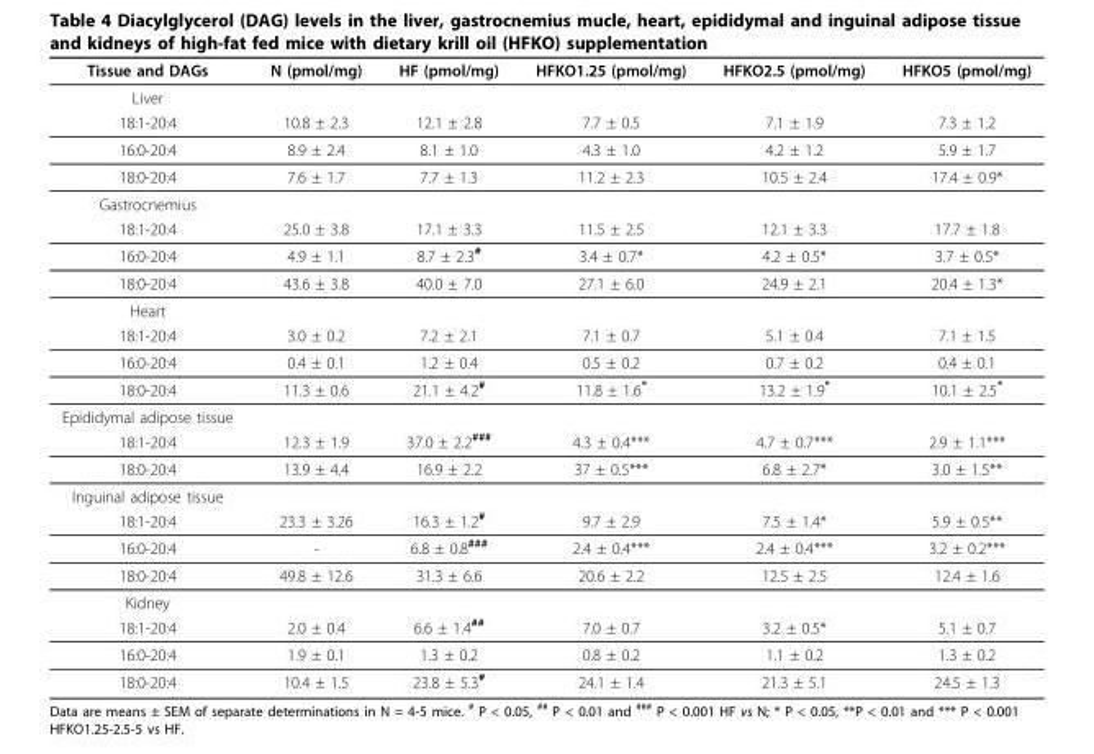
<table><thead><tr><td>Tissue and DAGs</td><td>N (pmol/mg)</td><td>HF (pmol/mg)</td><td>HFKO1.25 (pmol/mg)</td><td>HFKO2.5 (pmol/mg)</td><td>HFKO5 (pmol/mg)</td></tr></thead><tbody><tr><td colspan="6">Liver</td></tr><tr><td>18:1-20:4</td><td>10.8 ± 2.3</td><td>12.1 ± 2.8</td><td>7.7 ± 0.5</td><td>7.1 ± 1.9</td><td>7.3 ± 1.2</td></tr><tr><td>16:0-20:4</td><td>8.9 ± 2.4</td><td>8.1 ± 1.0</td><td>4.3 ± 1.0</td><td>4.2 ± 1.2</td><td>5.9 ± 1.7</td></tr><tr><td>18:0-20:4</td><td>7.6 ± 1.7</td><td>7.7 ± 1.3</td><td>11.2 ± 2.3</td><td>10.5 ± 2.4</td><td>17.4 ± 0.9*</td></tr><tr><td colspan="6">Gastrocnemius</td></tr><tr><td>18:1-20:4</td><td>25.0 ± 3.8</td><td>17.1 ± 3.3</td><td>11.5 ± 2.5</td><td>12.1 ± 3.3</td><td>17.7 ± 1.8</td></tr><tr><td>16:0-20:4</td><td>4.9 ± 1.1</td><td>8.7 ± 2.3<sup>#</sup></td><td>3.4 ± 0.7*</td><td>4.2 ± 0.5*</td><td>3.7 ± 0.5*</td></tr><tr><td>18:0-20:4</td><td>43.6 ± 3.8</td><td>40.0 ± 7.0</td><td>27.1 ± 6.0</td><td>24.9 ± 2.1</td><td>20.4 ± 1.3*</td></tr><tr><td colspan="6">Heart</td></tr><tr><td>18:1-20:4</td><td>3.0 ± 0.2</td><td>7.2 ± 2.1</td><td>7.1 ± 0.7</td><td>5.1 ± 0.4</td><td>7.1 ± 1.5</td></tr><tr><td>16:0-20:4</td><td>0.4 ± 0.1</td><td>1.2 ± 0.4</td><td>0.5 ± 0.2</td><td>0.7 ± 0.2</td><td>0.4 ± 0.1</td></tr><tr><td>18:0-20:4</td><td>11.3 ± 0.6</td><td>21.1 ± 4.2<sup>#</sup></td><td>11.8 ± 1.6*</td><td>13.2 ± 1.9*</td><td>10.1 ± 2.5*</td></tr><tr><td colspan="6">Epididymal adipose tissue</td></tr><tr><td>18:1-20:4</td><td>12.3 ± 1.9</td><td>37.0 ± 2.2<sup>###</sup></td><td>4.3 ± 0.4***</td><td>4.7 ± 0.7***</td><td>2.9 ± 1.1***</td></tr><tr><td>18:0-20:4</td><td>13.9 ± 4.4</td><td>16.9 ± 2.2</td><td>37 ± 0.5***</td><td>6.8 ± 2.7*</td><td>3.0 ± 1.5**</td></tr><tr><td colspan="6">Inguinal adipose tissue</td></tr><tr><td>18:1-20:4</td><td>23.3 ± 3.26</td><td>16.3 ± 1.2<sup>#</sup></td><td>9.7 ± 2.9</td><td>7.5 ± 1.4*</td><td>5.9 ± 0.5**</td></tr><tr><td>16:0-20:4</td><td>-</td><td>6.8 ± 0.8<sup>###</sup></td><td>2.4 ± 0.4***</td><td>2.4 ± 0.4***</td><td>3.2 ± 0.2***</td></tr><tr><td>18:0-20:4</td><td>49.8 ± 12.6</td><td>31.3 ± 6.6</td><td>20.6 ± 2.2</td><td>12.5 ± 2.5</td><td>12.4 ± 1.6</td></tr><tr><td colspan="6">Kidney</td></tr><tr><td>18:1-20:4</td><td>2.0 ± 0.4</td><td>6.6 ± 1.4<sup>##</sup></td><td>7.0 ± 0.7</td><td>3.2 ± 0.5*</td><td>5.1 ± 0.7</td></tr><tr><td>16:0-20:4</td><td>1.9 ± 0.1</td><td>1.3 ± 0.2</td><td>0.8 ± 0.2</td><td>1.1 ± 0.2</td><td>1.3 ± 0.2</td></tr><tr><td>18:0-20:4</td><td>10.4 ± 1.5</td><td>23.8 ± 5.3<sup>#</sup></td><td>24.1 ± 1.4</td><td>21.3 ± 5.1</td><td>24.5 ± 1.3</td></tr></tbody></table>